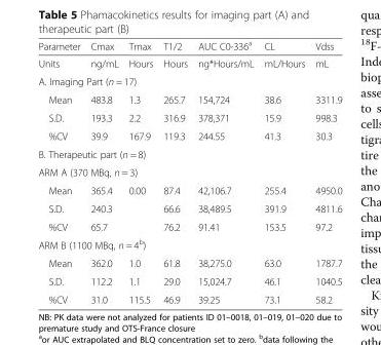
<table><thead><tr><td>Parameter</td><td>Cmax</td><td>Tmax</td><td>T1/2</td><td>AUC C0-336<sup>a</sup></td><td>CL</td><td>Vdss</td></tr></thead><tbody><tr><td>Units</td><td>ng/mL</td><td>Hours</td><td>Hours</td><td>ng*Hours/mL</td><td>mL/Hours</td><td>mL</td></tr><tr><td colspan="7">A. Imaging Part (n = 17)</td></tr><tr><td>Mean</td><td>483.8</td><td>1.3</td><td>265.7</td><td>154,724</td><td>38.6</td><td>3311.9</td></tr><tr><td>S.D.</td><td>193.3</td><td>2.2</td><td>316.9</td><td>378,371</td><td>15.9</td><td>998.3</td></tr><tr><td>%CV</td><td>39.9</td><td>167.9</td><td>119.3</td><td>244.55</td><td>41.3</td><td>30.3</td></tr><tr><td colspan="7">B. Therapeutic part (n = 8)</td></tr><tr><td colspan="7">ARM A (370 MBq, n = 3)</td></tr><tr><td>Mean</td><td>365.4</td><td>0.00</td><td>87.4</td><td>42,106.7</td><td>255.4</td><td>4950.0</td></tr><tr><td>S.D.</td><td>240.3</td><td></td><td>66.6</td><td>38,489.5</td><td>391.9</td><td>4811.6</td></tr><tr><td>%CV</td><td>65.7</td><td></td><td>76.2</td><td>91.41</td><td>153.5</td><td>97.2</td></tr><tr><td colspan="7">ARM B (1100 MBq, n = 4<sup>b</sup>)</td></tr><tr><td>Mean</td><td>362.0</td><td>1.0</td><td>61.8</td><td>38,275.0</td><td>63.0</td><td>1787.7</td></tr><tr><td>S.D.</td><td>112.2</td><td>1.1</td><td>29.0</td><td>15,024.7</td><td>46.1</td><td>1040.5</td></tr><tr><td>%CV</td><td>31.0</td><td>115.5</td><td>46.9</td><td>39.25</td><td>73.1</td><td>58.2</td></tr></tbody></table>